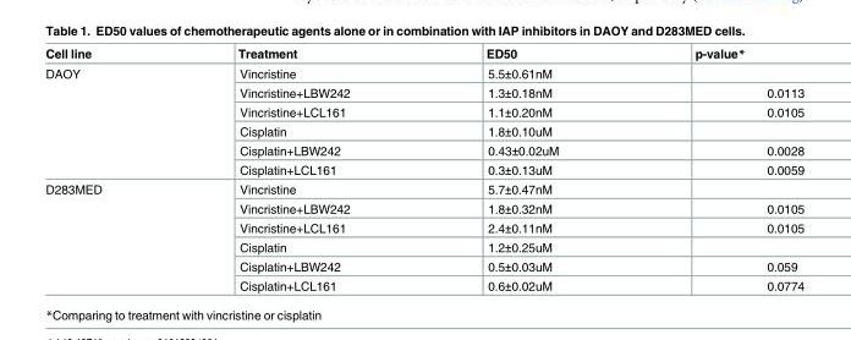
<table><thead><tr><td>Cell line</td><td>Treatment</td><td>ED50</td><td>p-value*</td></tr></thead><tbody><tr><td rowspan="6">DAOY</td><td>Vincristine</td><td>5.5±0.61nM</td><td></td></tr><tr><td>Vincristine+LBW242</td><td>1.3±0.18nM</td><td>0.0113</td></tr><tr><td>Vincristine+LCL161</td><td>1.1±0.20nM</td><td>0.0105</td></tr><tr><td>Cisplatin</td><td>1.8±0.10uM</td><td></td></tr><tr><td>Cisplatin+LBW242</td><td>0.43±0.02uM</td><td>0.0028</td></tr><tr><td>Cisplatin+LCL161</td><td>0.3±0.13uM</td><td>0.0059</td></tr><tr><td rowspan="6">D283MED</td><td>Vincristine</td><td>5.7±0.47nM</td><td></td></tr><tr><td>Vincristine+LBW242</td><td>1.8±0.32nM</td><td>0.0105</td></tr><tr><td>Vincristine+LCL161</td><td>2.4±0.11nM</td><td>0.0105</td></tr><tr><td>Cisplatin</td><td>1.2±0.25uM</td><td></td></tr><tr><td>Cisplatin+LBW242</td><td>0.5±0.03uM</td><td>0.059</td></tr><tr><td>Cisplatin+LCL161</td><td>0.6±0.02uM</td><td>0.0774</td></tr></tbody></table>